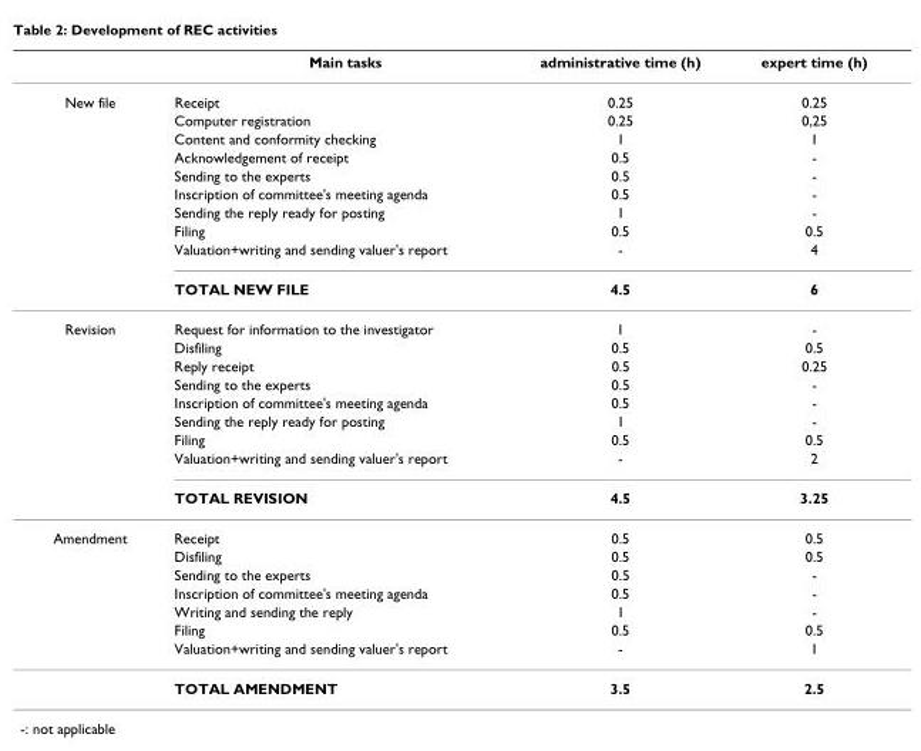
<table><thead><tr><td></td><td>Main tasks</td><td>administrative time (h)</td><td>expert time (h)</td></tr></thead><tbody><tr><td rowspan="10">New file</td><td>Receipt</td><td>0.25</td><td>0.25</td></tr><tr><td>Computer registration</td><td>0.25</td><td>0,25</td></tr><tr><td>Content and conformity checking</td><td>1</td><td>1</td></tr><tr><td>Acknowledgement of receipt</td><td>0.5</td><td>-</td></tr><tr><td>Sending to the experts</td><td>0.5</td><td>-</td></tr><tr><td>Inscription of committee&#x27;s meeting agenda</td><td>0.5</td><td>-</td></tr><tr><td>Sending the reply ready for posting</td><td>1</td><td>-</td></tr><tr><td>Filing</td><td>0.5</td><td>0.5</td></tr><tr><td>Valuation+writing and sending valuer&#x27;s report</td><td>-</td><td>4</td></tr><tr><td>TOTAL NEW FILE</td><td>4.5</td><td>6</td></tr><tr><td rowspan="9">Revision</td><td>Request for information to the investigator</td><td>1</td><td>-</td></tr><tr><td>Disfiling</td><td>0.5</td><td>0.5</td></tr><tr><td>Reply receipt</td><td>0.5</td><td>0.25</td></tr><tr><td>Sending to the experts</td><td>0.5</td><td>-</td></tr><tr><td>Inscription of committee&#x27;s meeting agenda</td><td>0.5</td><td>-</td></tr><tr><td>Sending the reply ready for posting</td><td>1</td><td>-</td></tr><tr><td>Filing</td><td>0.5</td><td>0.5</td></tr><tr><td>Valuation+writing and sending valuer&#x27;s report</td><td>-</td><td>2</td></tr><tr><td>TOTAL REVISION</td><td>4.5</td><td>3.25</td></tr><tr><td rowspan="8">Amendment</td><td>Receipt</td><td>0.5</td><td>0.5</td></tr><tr><td>Disfiling</td><td>0.5</td><td>0.5</td></tr><tr><td>Sending to the experts</td><td>0.5</td><td>-</td></tr><tr><td>Inscription of committee&#x27;s meeting agenda</td><td>0.5</td><td>-</td></tr><tr><td>Writing and sending the reply</td><td>1</td><td>-</td></tr><tr><td>Filing</td><td>0.5</td><td>0.5</td></tr><tr><td>Valuation+writing and sending valuer&#x27;s report</td><td>-</td><td>1</td></tr><tr><td>TOTAL AMENDMENT</td><td>3.5</td><td>2.5</td></tr></tbody></table>